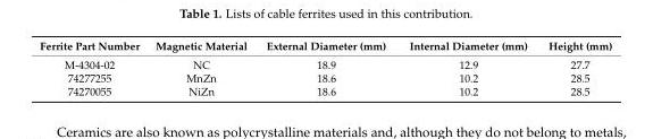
<table><thead><tr><td>Ferrite Part Number</td><td>Magnetic Material</td><td>External Diameter (mm)</td><td>Internal Diameter (mm)</td><td>Height (mm)</td></tr></thead><tbody><tr><td>M-4304-02</td><td>NC</td><td>18.9</td><td>12.9</td><td>27.7</td></tr><tr><td>74277255</td><td>MnZn</td><td>18.6</td><td>10.2</td><td>28.5</td></tr><tr><td>74270055</td><td>NiZn</td><td>18.6</td><td>10.2</td><td>28.5</td></tr></tbody></table>